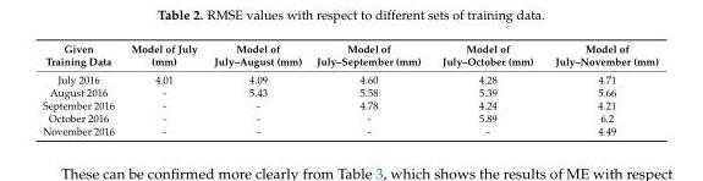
<table><thead><tr><td>Given Training Data</td><td>Model of July (mm)</td><td>Model of July–August (mm)</td><td>Model of July–September (mm)</td><td>Model of July–October (mm)</td><td>Model of July–November (mm)</td></tr></thead><tbody><tr><td>July 2016</td><td>4.01</td><td>4.09</td><td>4.60</td><td>4.28</td><td>4.71</td></tr><tr><td>August 2016</td><td>-</td><td>5.43</td><td>5.58</td><td>5.39</td><td>5.66</td></tr><tr><td>September 2016</td><td>-</td><td>-</td><td>4.78</td><td>4.24</td><td>4.21</td></tr><tr><td>October 2016</td><td>-</td><td>-</td><td>-</td><td>5.89</td><td>6.2</td></tr><tr><td>November 2016</td><td>-</td><td>-</td><td>-</td><td>-</td><td>4.49</td></tr></tbody></table>